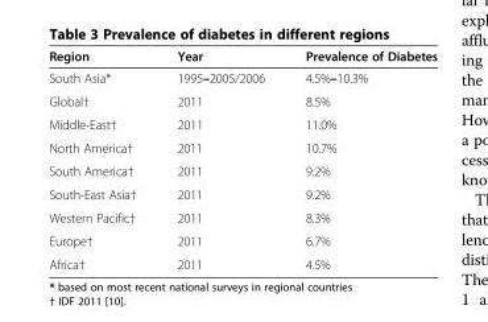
<table><thead><tr><td>Region</td><td>Year</td><td>Prevalence of Diabetes</td></tr></thead><tbody><tr><td>South Asia*</td><td>1995–2005/2006</td><td>4.5%–10.3%</td></tr><tr><td>Global†</td><td>2011</td><td>8.5%</td></tr><tr><td>Middle-East†</td><td>2011</td><td>11.0%</td></tr><tr><td>North America†</td><td>2011</td><td>10.7%</td></tr><tr><td>South America†</td><td>2011</td><td>9.2%</td></tr><tr><td>South-East Asia†</td><td>2011</td><td>9.2%</td></tr><tr><td>Western Pacific†</td><td>2011</td><td>8.3%</td></tr><tr><td>Europe†</td><td>2011</td><td>6.7%</td></tr><tr><td>Africa†</td><td>2011</td><td>4.5%</td></tr></tbody></table>